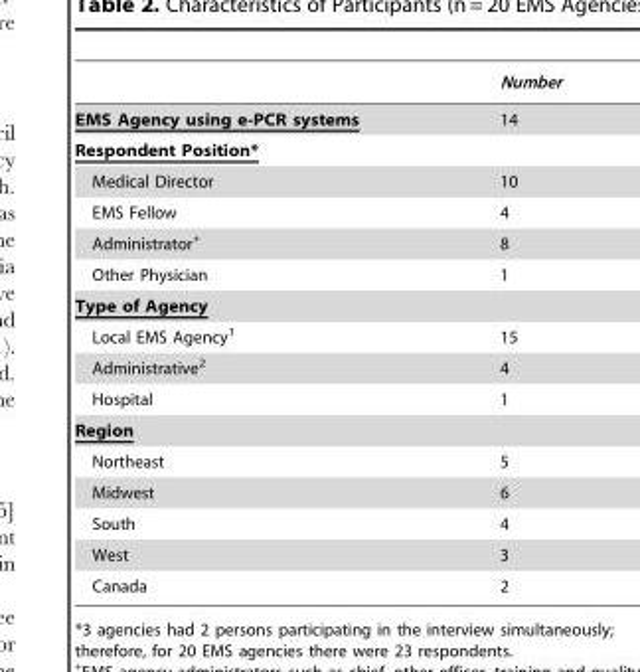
<table><thead><tr><td></td><td>Number</td></tr></thead><tbody><tr><td>EMS Agency using e-PCR systems</td><td>14</td></tr><tr><td colspan="2">Respondent Position*</td></tr><tr><td>Medical Director</td><td>10</td></tr><tr><td>EMS Fellow</td><td>4</td></tr><tr><td>Administrator+</td><td>8</td></tr><tr><td>Other Physician</td><td>1</td></tr><tr><td colspan="2">Type of Agency</td></tr><tr><td>Local EMS Agency<sup>1</sup></td><td>15</td></tr><tr><td>Administrative<sup>2</sup></td><td>4</td></tr><tr><td>Hospital</td><td>1</td></tr><tr><td colspan="2">Region</td></tr><tr><td>Northeast</td><td>5</td></tr><tr><td>Midwest</td><td>6</td></tr><tr><td>South</td><td>4</td></tr><tr><td>West</td><td>3</td></tr><tr><td>Canada</td><td>2</td></tr></tbody></table>